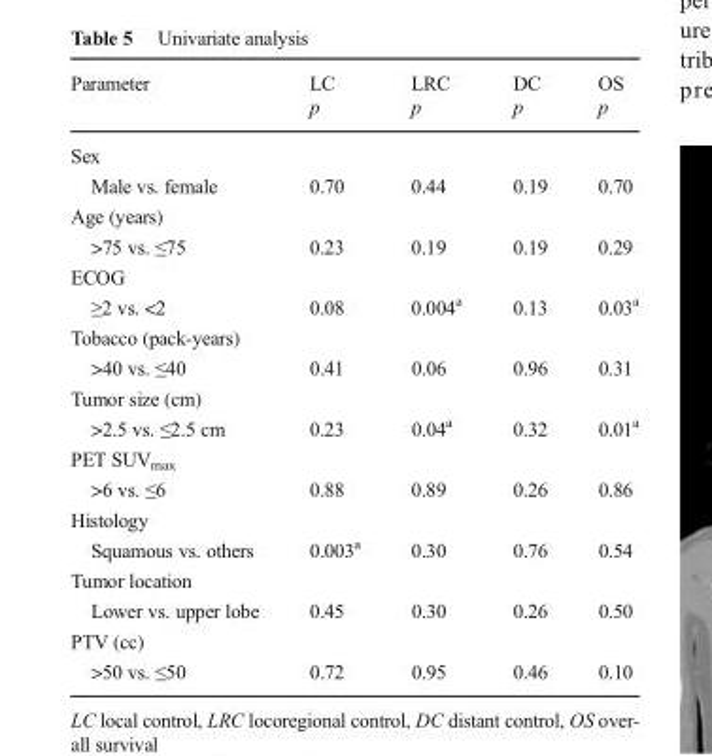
<table><thead><tr><td>Parameter</td><td>LC p</td><td>LRC p</td><td>DC p</td><td>OS p</td></tr></thead><tbody><tr><td colspan="5">Sex</td></tr><tr><td>Male vs. female</td><td>0.70</td><td>0.44</td><td>0.19</td><td>0.70</td></tr><tr><td colspan="5">Age (years)</td></tr><tr><td>&gt;75 vs. ≤75</td><td>0.23</td><td>0.19</td><td>0.19</td><td>0.29</td></tr><tr><td colspan="5">ECOG</td></tr><tr><td>≥2 vs. &lt;2</td><td>0.08</td><td>0.004<sup>a</sup></td><td>0.13</td><td>0.03<sup>a</sup></td></tr><tr><td colspan="5">Tobacco (pack-years)</td></tr><tr><td>&gt;40 vs. ≤40</td><td>0.41</td><td>0.06</td><td>0.96</td><td>0.31</td></tr><tr><td colspan="5">Tumor size (cm)</td></tr><tr><td>&gt;2.5 vs. ≤2.5 cm</td><td>0.23</td><td>0.04<sup>a</sup></td><td>0.32</td><td>0.01<sup>a</sup></td></tr><tr><td colspan="5">PET SUV<sub>max</sub></td></tr><tr><td>&gt;6 vs. ≤6</td><td>0.88</td><td>0.89</td><td>0.26</td><td>0.86</td></tr><tr><td colspan="5">Histology</td></tr><tr><td>Squamous vs. others</td><td>0.003<sup>a</sup></td><td>0.30</td><td>0.76</td><td>0.54</td></tr><tr><td colspan="5">Tumor location</td></tr><tr><td>Lower vs. upper lobe</td><td>0.45</td><td>0.30</td><td>0.26</td><td>0.50</td></tr><tr><td colspan="5">PTV (cc)</td></tr><tr><td>&gt;50 vs. ≤50</td><td>0.72</td><td>0.95</td><td>0.46</td><td>0.10</td></tr></tbody></table>